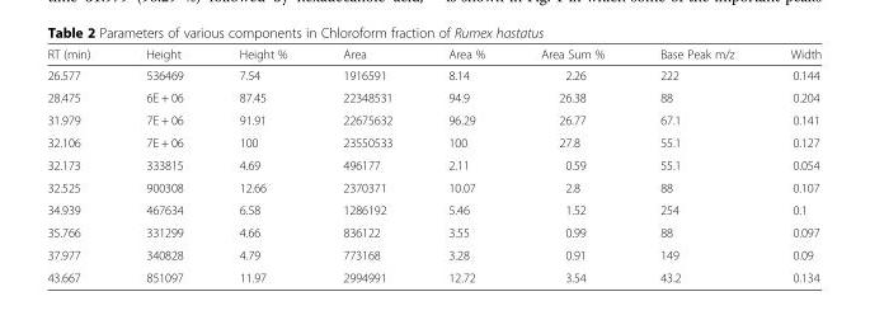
<table><thead><tr><td>RT (min)</td><td>Height</td><td>Height %</td><td>Area</td><td>Area %</td><td>Area Sum %</td><td>Base Peak m/z</td><td>Width</td></tr></thead><tbody><tr><td>26.577</td><td>536469</td><td>7.54</td><td>1916591</td><td>8.14</td><td>2.26</td><td>222</td><td>0.144</td></tr><tr><td>28.475</td><td>6E + 06</td><td>87.45</td><td>22348531</td><td>94.9</td><td>26.38</td><td>88</td><td>0.204</td></tr><tr><td>31.979</td><td>7E + 06</td><td>91.91</td><td>22675632</td><td>96.29</td><td>26.77</td><td>67.1</td><td>0.141</td></tr><tr><td>32.106</td><td>7E + 06</td><td>100</td><td>23550533</td><td>100</td><td>27.8</td><td>55.1</td><td>0.127</td></tr><tr><td>32.173</td><td>333815</td><td>4.69</td><td>496177</td><td>2.11</td><td>0.59</td><td>55.1</td><td>0.054</td></tr><tr><td>32.525</td><td>900308</td><td>12.66</td><td>2370371</td><td>10.07</td><td>2.8</td><td>88</td><td>0.107</td></tr><tr><td>34.939</td><td>467634</td><td>6.58</td><td>1286192</td><td>5.46</td><td>1.52</td><td>254</td><td>0.1</td></tr><tr><td>35.766</td><td>331299</td><td>4.66</td><td>836122</td><td>3.55</td><td>0.99</td><td>88</td><td>0.097</td></tr><tr><td>37.977</td><td>340828</td><td>4.79</td><td>773168</td><td>3.28</td><td>0.91</td><td>149</td><td>0.09</td></tr><tr><td>43.667</td><td>851097</td><td>11.97</td><td>2994991</td><td>12.72</td><td>3.54</td><td>43.2</td><td>0.134</td></tr></tbody></table>